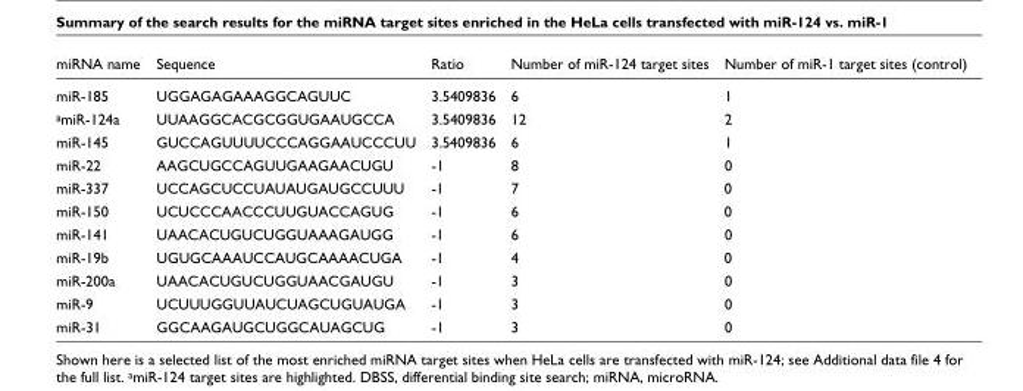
<table><thead><tr><td>miRNA name</td><td>Sequence</td><td>Ratio</td><td>Number of miR-124 target sites</td><td>Number of miR-1 target sites (control)</td></tr></thead><tbody><tr><td>miR-185</td><td>UGGAGAGAAAGGCAGUUC</td><td>3.5409836</td><td>6</td><td>1</td></tr><tr><td>amiR-124a</td><td>UUAAGGCACGCGGUGAAUGCCA</td><td>3.5409836</td><td>12</td><td>2</td></tr><tr><td>miR-145</td><td>GUCCAGUUUUCCCAGGAAUCCCUU</td><td>3.5409836</td><td>6</td><td>1</td></tr><tr><td>miR-22</td><td>AAGCUGCCAGUUGAAGAACUGU</td><td>-1</td><td>8</td><td>0</td></tr><tr><td>miR-337</td><td>UCCAGCUCCUAUAUGAUGCCUUU</td><td>-1</td><td>7</td><td>0</td></tr><tr><td>miR-150</td><td>UCUCCCAACCCUUGUACCAGUG</td><td>-1</td><td>6</td><td>0</td></tr><tr><td>miR-141</td><td>UAACACUGUCUGGUAAAGAUGG</td><td>-1</td><td>6</td><td>0</td></tr><tr><td>miR-19b</td><td>UGUGCAAAUCCAUGCAAAACUGA</td><td>-1</td><td>4</td><td>0</td></tr><tr><td>miR-200a</td><td>UAACACUGUCUGGUAACGAUGU</td><td>-1</td><td>3</td><td>0</td></tr><tr><td>miR-9</td><td>UCUUUGGUUAUCUAGCUGUAUGA</td><td>-1</td><td>3</td><td>0</td></tr><tr><td>miR-31</td><td>GGCAAGAUGCUGGCAUAGCUG</td><td>-1</td><td>3</td><td>0</td></tr></tbody></table>